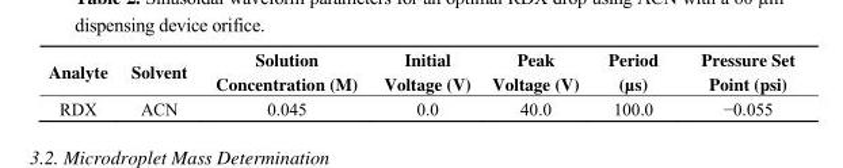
<table><thead><tr><td>Analyte</td><td>Solvent</td><td>Solution Concentration (M)</td><td>Initial Voltage (V)</td><td>Peak Voltage (V)</td><td>Period (µs)</td><td>Pressure Set Point (psi)</td></tr></thead><tbody><tr><td>RDX</td><td>ACN</td><td>0.045</td><td>0.0</td><td>40.0</td><td>100.0</td><td>−0.055</td></tr></tbody></table>